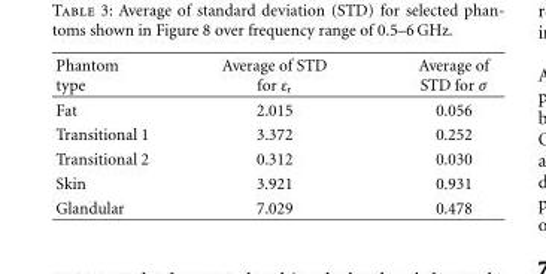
<table><thead><tr><td>Phantom type</td><td>Average of STD for ε<sub>r</sub></td><td>Average of STD for σ</td></tr></thead><tbody><tr><td>Fat</td><td>2.015</td><td>0.056</td></tr><tr><td>Transitional 1</td><td>3.372</td><td>0.252</td></tr><tr><td>Transitional 2</td><td>0.312</td><td>0.030</td></tr><tr><td>Skin</td><td>3.921</td><td>0.931</td></tr><tr><td>Glandular</td><td>7.029</td><td>0.478</td></tr></tbody></table>